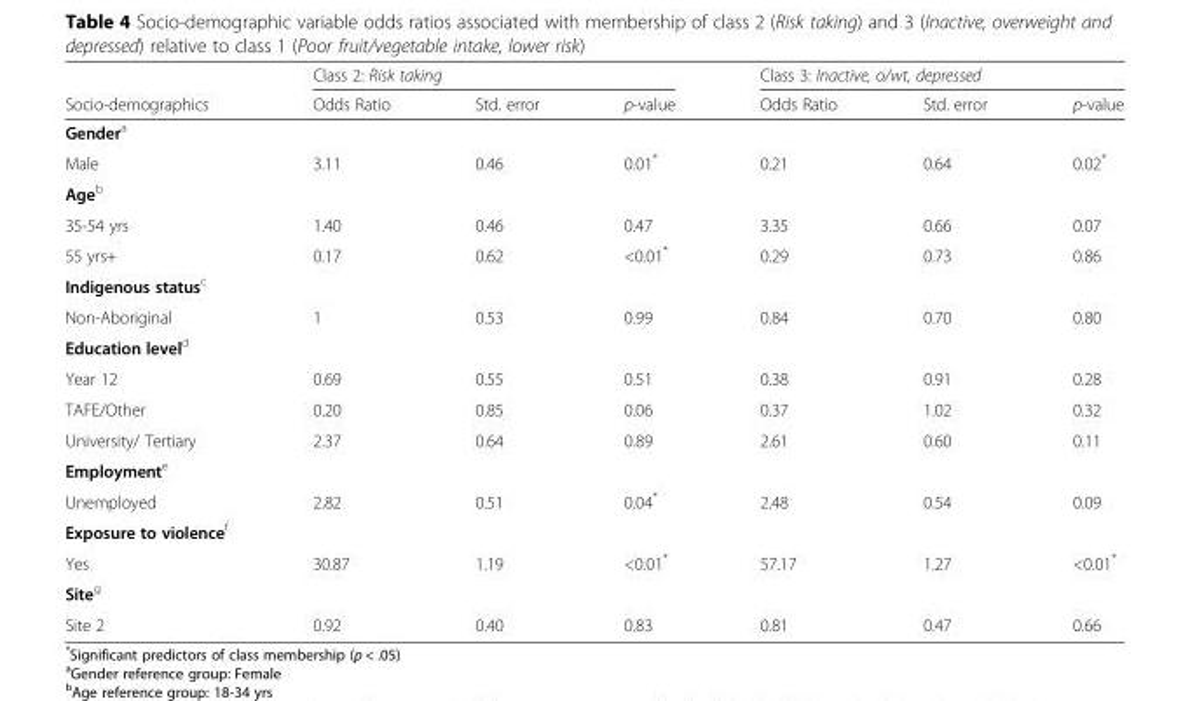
<table><thead><tr><td rowspan="2">Socio-demographics</td><td colspan="3">Class 2: Risk taking</td><td colspan="3">Class 3: Inactive, o/wt, depressed</td></tr><tr><td>Odds Ratio</td><td>Std. error</td><td>p-value</td><td>Odds Ratio</td><td>Std. error</td><td>p-value</td></tr></thead><tbody><tr><td colspan="7">Gender<sup>a</sup></td></tr><tr><td>Male</td><td>3.11</td><td>0.46</td><td>0.01*</td><td>0.21</td><td>0.64</td><td>0.02*</td></tr><tr><td colspan="7">Age<sup>b</sup></td></tr><tr><td>35-54 yrs</td><td>1.40</td><td>0.46</td><td>0.47</td><td>3.35</td><td>0.66</td><td>0.07</td></tr><tr><td>55 yrs+</td><td>0.17</td><td>0.62</td><td>&lt;0.01*</td><td>0.29</td><td>0.73</td><td>0.86</td></tr><tr><td colspan="7">Indigenous status<sup>c</sup></td></tr><tr><td>Non-Aboriginal</td><td>1</td><td>0.53</td><td>0.99</td><td>0.84</td><td>0.70</td><td>0.80</td></tr><tr><td colspan="7">Education level<sup>d</sup></td></tr><tr><td>Year 12</td><td>0.69</td><td>0.55</td><td>0.51</td><td>0.38</td><td>0.91</td><td>0.28</td></tr><tr><td>TAFE/Other</td><td>0.20</td><td>0.85</td><td>0.06</td><td>0.37</td><td>1.02</td><td>0.32</td></tr><tr><td>University/ Tertiary</td><td>2.37</td><td>0.64</td><td>0.89</td><td>2.61</td><td>0.60</td><td>0.11</td></tr><tr><td colspan="7">Employment<sup>e</sup></td></tr><tr><td>Unemployed</td><td>2.82</td><td>0.51</td><td>0.04*</td><td>2.48</td><td>0.54</td><td>0.09</td></tr><tr><td colspan="7">Exposure to violence<sup>f</sup></td></tr><tr><td>Yes</td><td>30.87</td><td>1.19</td><td>&lt;0.01*</td><td>57.17</td><td>1.27</td><td>&lt;0.01*</td></tr><tr><td colspan="7">Site<sup>g</sup></td></tr><tr><td>Site 2</td><td>0.92</td><td>0.40</td><td>0.83</td><td>0.81</td><td>0.47</td><td>0.66</td></tr></tbody></table>